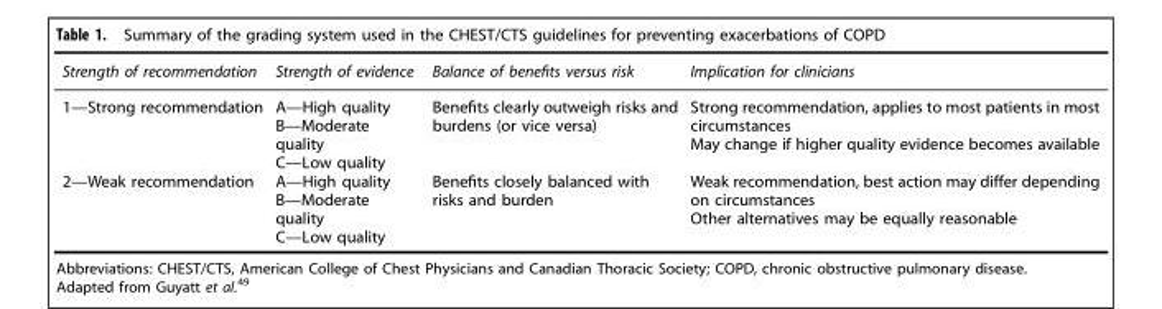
<table><thead><tr><td>Strength of recommendation</td><td>Strength of evidence</td><td>Balance of benefits versus risk</td><td>Implication for clinicians</td></tr></thead><tbody><tr><td>1—Strong recommendation</td><td>A—High quality B—Moderate quality C—Low quality</td><td>Benefits clearly outweigh risks and burdens (or vice versa)</td><td>Strong recommendation, applies to most patients in most circumstances May change if higher quality evidence becomes available</td></tr><tr><td>2—Weak recommendation</td><td>A—High quality B—Moderate quality C—Low quality</td><td>Benefits closely balanced with risks and burden</td><td>Weak recommendation, best action may differ depending on circumstances Other alternatives may be equally reasonable</td></tr></tbody></table>